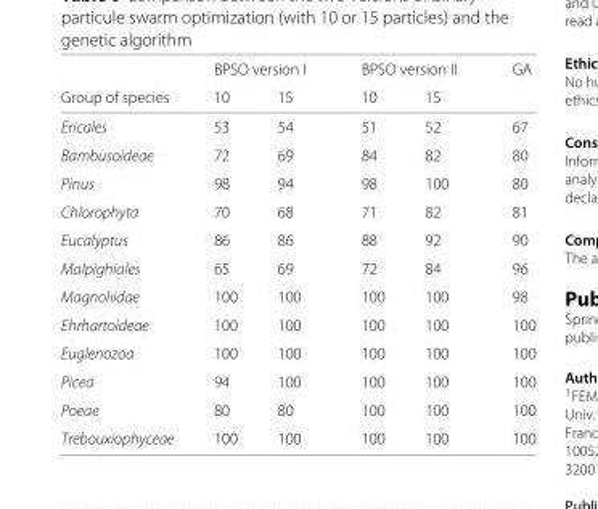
<table><thead><tr><td rowspan="2">Group of species</td><td colspan="2">BPSO version I</td><td colspan="2">BPSO version II</td><td rowspan="2">GA</td></tr><tr><td>10</td><td>15</td><td>10</td><td>15</td></tr></thead><tbody><tr><td>Ericales</td><td>53</td><td>54</td><td>51</td><td>52</td><td>67</td></tr><tr><td>Bambusoideae</td><td>72</td><td>69</td><td>84</td><td>82</td><td>80</td></tr><tr><td>Pinus</td><td>98</td><td>94</td><td>98</td><td>100</td><td>80</td></tr><tr><td>Chlorophyta</td><td>70</td><td>68</td><td>71</td><td>82</td><td>81</td></tr><tr><td>Eucalyptus</td><td>86</td><td>86</td><td>88</td><td>92</td><td>90</td></tr><tr><td>Malpighiales</td><td>65</td><td>69</td><td>72</td><td>84</td><td>96</td></tr><tr><td>Magnoliidae</td><td>100</td><td>100</td><td>100</td><td>100</td><td>98</td></tr><tr><td>Ehrhartoideae</td><td>100</td><td>100</td><td>100</td><td>100</td><td>100</td></tr><tr><td>Euglenozoa</td><td>100</td><td>100</td><td>100</td><td>100</td><td>100</td></tr><tr><td>Picea</td><td>94</td><td>100</td><td>100</td><td>100</td><td>100</td></tr><tr><td>Poeae</td><td>80</td><td>80</td><td>100</td><td>100</td><td>100</td></tr><tr><td>Trebouxiophyceae</td><td>100</td><td>100</td><td>100</td><td>100</td><td>100</td></tr></tbody></table>